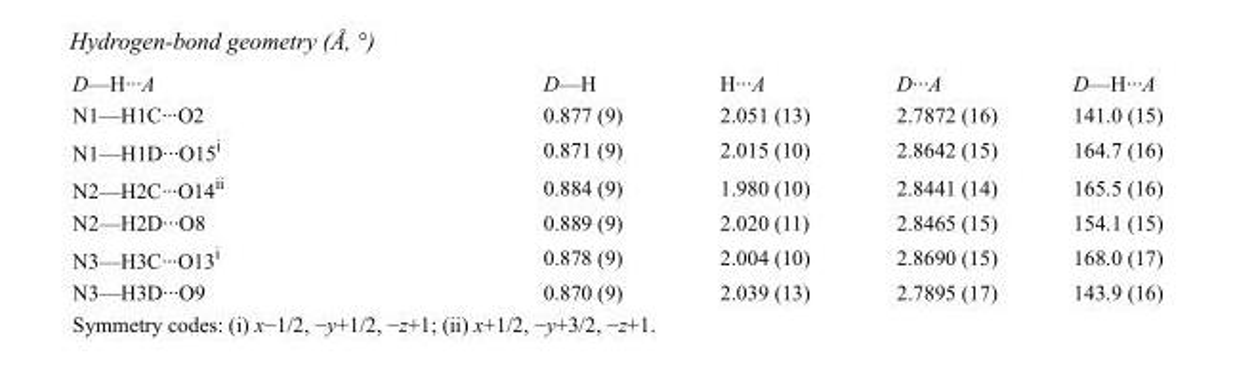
<table><tbody><tr><td>D—H···A</td><td>D—H</td><td>H···A</td><td>D···A</td><td>D—H···A</td></tr><tr><td>N1—H1C···O2</td><td>0.877 (9)</td><td>2.051 (13)</td><td>2.7872 (16)</td><td>141.0 (15)</td></tr><tr><td>N1—H1D···O15<sup>i</sup></td><td>0.871 (9)</td><td>2.015 (10)</td><td>2.8642 (15)</td><td>164.7 (16)</td></tr><tr><td>N2—H2C···O14<sup>ii</sup></td><td>0.884 (9)</td><td>1.980 (10)</td><td>2.8441 (14)</td><td>165.5 (16)</td></tr><tr><td>N2—H2D···O8</td><td>0.889 (9)</td><td>2.020 (11)</td><td>2.8465 (15)</td><td>154.1 (15)</td></tr><tr><td>N3—H3C···O13<sup>i</sup></td><td>0.878 (9)</td><td>2.004 (10)</td><td>2.8690 (15)</td><td>168.0 (17)</td></tr><tr><td>N3—H3D···O9</td><td>0.870 (9)</td><td>2.039 (13)</td><td>2.7895 (17)</td><td>143.9 (16)</td></tr></tbody></table>